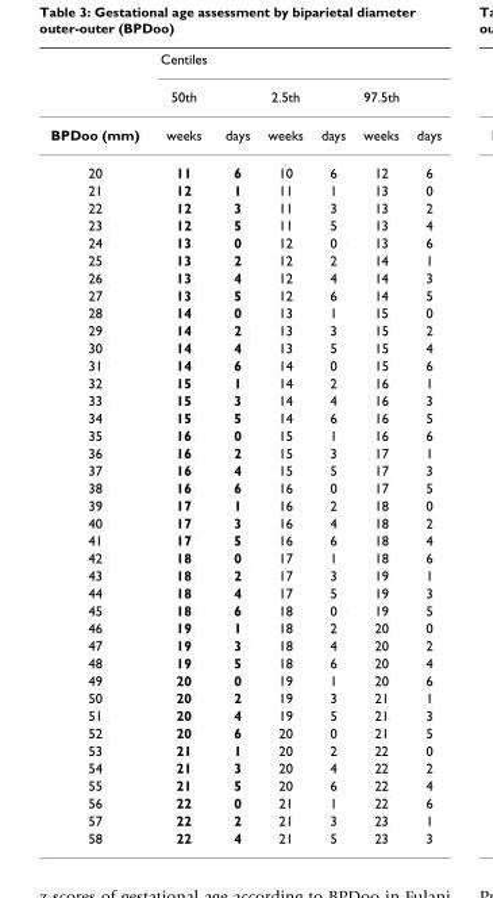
<table><thead><tr><td rowspan="2"></td><td rowspan="2">Centiles 50th</td><td rowspan="2"></td><td rowspan="2">2.5th</td><td rowspan="2"></td><td rowspan="2">97.5th</td><td rowspan="2"></td></tr><tr></tr></thead><tbody><tr><td>BPDoo (mm)</td><td>weeks</td><td>days</td><td>weeks</td><td>days</td><td>weeks</td><td>days</td></tr><tr><td>20</td><td>11</td><td>6</td><td>10</td><td>6</td><td>12</td><td>6</td></tr><tr><td>21</td><td>12</td><td>1</td><td>11</td><td>1</td><td>13</td><td>0</td></tr><tr><td>22</td><td>12</td><td>3</td><td>11</td><td>3</td><td>13</td><td>2</td></tr><tr><td>23</td><td>12</td><td>5</td><td>11</td><td>5</td><td>13</td><td>4</td></tr><tr><td>24</td><td>13</td><td>0</td><td>12</td><td>0</td><td>13</td><td>6</td></tr><tr><td>25</td><td>13</td><td>2</td><td>12</td><td>2</td><td>14</td><td>1</td></tr><tr><td>26</td><td>13</td><td>4</td><td>12</td><td>4</td><td>14</td><td>3</td></tr><tr><td>27</td><td>13</td><td>5</td><td>12</td><td>6</td><td>14</td><td>5</td></tr><tr><td>28</td><td>14</td><td>0</td><td>13</td><td>1</td><td>15</td><td>0</td></tr><tr><td>29</td><td>14</td><td>2</td><td>13</td><td>3</td><td>15</td><td>2</td></tr><tr><td>30</td><td>14</td><td>4</td><td>13</td><td>5</td><td>15</td><td>4</td></tr><tr><td>31</td><td>14</td><td>6</td><td>14</td><td>0</td><td>15</td><td>6</td></tr><tr><td>32</td><td>15</td><td>1</td><td>14</td><td>2</td><td>16</td><td>1</td></tr><tr><td>33</td><td>15</td><td>3</td><td>14</td><td>4</td><td>16</td><td>3</td></tr><tr><td>34</td><td>15</td><td>5</td><td>14</td><td>6</td><td>16</td><td>5</td></tr><tr><td>35</td><td>16</td><td>0</td><td>15</td><td>1</td><td>16</td><td>6</td></tr><tr><td>36</td><td>16</td><td>2</td><td>15</td><td>3</td><td>17</td><td>1</td></tr><tr><td>37</td><td>16</td><td>4</td><td>15</td><td>5</td><td>17</td><td>3</td></tr><tr><td>38</td><td>16</td><td>6</td><td>16</td><td>0</td><td>17</td><td>5</td></tr><tr><td>39</td><td>17</td><td>1</td><td>16</td><td>2</td><td>18</td><td>0</td></tr><tr><td>40</td><td>17</td><td>3</td><td>16</td><td>4</td><td>18</td><td>2</td></tr><tr><td>41</td><td>17</td><td>5</td><td>16</td><td>6</td><td>18</td><td>4</td></tr><tr><td>42</td><td>18</td><td>0</td><td>17</td><td>1</td><td>18</td><td>6</td></tr><tr><td>43</td><td>18</td><td>2</td><td>17</td><td>3</td><td>19</td><td>1</td></tr><tr><td>44</td><td>18</td><td>4</td><td>17</td><td>5</td><td>19</td><td>3</td></tr><tr><td>45</td><td>18</td><td>6</td><td>18</td><td>0</td><td>19</td><td>5</td></tr><tr><td>46</td><td>19</td><td>1</td><td>18</td><td>2</td><td>20</td><td>0</td></tr><tr><td>47</td><td>19</td><td>3</td><td>18</td><td>4</td><td>20</td><td>2</td></tr><tr><td>48</td><td>19</td><td>5</td><td>18</td><td>6</td><td>20</td><td>4</td></tr><tr><td>49</td><td>20</td><td>0</td><td>19</td><td>1</td><td>20</td><td>6</td></tr><tr><td>50</td><td>20</td><td>2</td><td>19</td><td>3</td><td>21</td><td>1</td></tr><tr><td>51</td><td>20</td><td>4</td><td>19</td><td>5</td><td>21</td><td>3</td></tr><tr><td>52</td><td>20</td><td>6</td><td>20</td><td>0</td><td>21</td><td>5</td></tr><tr><td>53</td><td>21</td><td>1</td><td>20</td><td>2</td><td>22</td><td>0</td></tr><tr><td>54</td><td>21</td><td>3</td><td>20</td><td>4</td><td>22</td><td>2</td></tr><tr><td>55</td><td>21</td><td>5</td><td>20</td><td>6</td><td>22</td><td>4</td></tr><tr><td>56</td><td>22</td><td>0</td><td>21</td><td>1</td><td>22</td><td>6</td></tr><tr><td>57</td><td>22</td><td>2</td><td>21</td><td>3</td><td>23</td><td>1</td></tr><tr><td>58</td><td>22</td><td>4</td><td>21</td><td>5</td><td>23</td><td>3</td></tr></tbody></table>